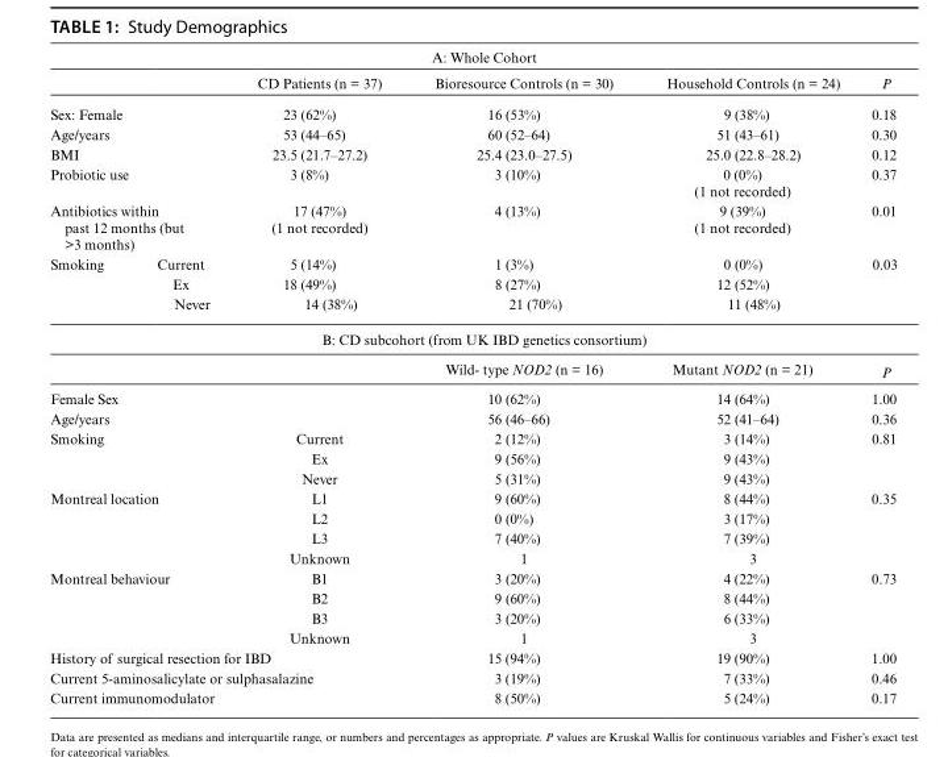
<table><thead><tr><td colspan="6">A: Whole Cohort</td></tr><tr><td></td><td></td><td>CD Patients (n = 37)</td><td>Bioresource Controls (n = 30)</td><td>Household Controls (n = 24)</td><td>P</td></tr></thead><tbody><tr><td colspan="2">Sex: Female</td><td>23 (62%)</td><td>16 (53%)</td><td>9 (38%)</td><td>0.18</td></tr><tr><td colspan="2">Age/years</td><td>53 (44–65)</td><td>60 (52–64)</td><td>51 (43–61)</td><td>0.30</td></tr><tr><td colspan="2">BMI</td><td>23.5 (21.7–27.2)</td><td>25.4 (23.0–27.5)</td><td>25.0 (22.8–28.2)</td><td>0.12</td></tr><tr><td colspan="2">Probiotic use</td><td>3 (8%)</td><td>3 (10%)</td><td>0 (0%) (1 not recorded)</td><td>0.37</td></tr><tr><td colspan="2">Antibiotics within past 12 months (but &gt;3 months)</td><td>17 (47%) (1 not recorded)</td><td>4 (13%)</td><td>9 (39%) (1 not recorded)</td><td>0.01</td></tr><tr><td rowspan="3">Smoking</td><td>Current</td><td>5 (14%)</td><td>1 (3%)</td><td>0 (0%)</td><td rowspan="3">0.03</td></tr><tr><td>Ex</td><td>18 (49%)</td><td>8 (27%)</td><td>12 (52%)</td></tr><tr><td>Never</td><td>14 (38%)</td><td>21 (70%)</td><td>11 (48%)</td></tr><tr><td colspan="6">B: CD subcohort (from UK IBD genetics consortium)</td></tr><tr><td colspan="3"></td><td>Wild- type NOD2 (n = 16)</td><td>Mutant NOD2 (n = 21)</td><td>P</td></tr><tr><td colspan="3">Female Sex</td><td>10 (62%)</td><td>14 (64%)</td><td>1.00</td></tr><tr><td colspan="3">Age/years</td><td>56 (46–66)</td><td>52 (41–64)</td><td>0.36</td></tr><tr><td rowspan="3" colspan="2">Smoking</td><td>Current</td><td>2 (12%)</td><td>3 (14%)</td><td rowspan="3">0.81</td></tr><tr><td>Ex</td><td>9 (56%)</td><td>9 (43%)</td></tr><tr><td>Never</td><td>5 (31%)</td><td>9 (43%)</td></tr><tr><td rowspan="4" colspan="2">Montreal location</td><td>L1</td><td>9 (60%)</td><td>8 (44%)</td><td rowspan="3">0.35</td></tr><tr><td>L2</td><td>0 (0%)</td><td>3 (17%)</td></tr><tr><td>L3</td><td>7 (40%)</td><td>7 (39%)</td></tr><tr><td>Unknown</td><td>1</td><td>3</td><td></td></tr><tr><td rowspan="4" colspan="2">Montreal behaviour</td><td>B1</td><td>3 (20%)</td><td>4 (22%)</td><td rowspan="3">0.73</td></tr><tr><td>B2</td><td>9 (60%)</td><td>8 (44%)</td></tr><tr><td>B3</td><td>3 (20%)</td><td>6 (33%)</td></tr><tr><td>Unknown</td><td>1</td><td>3</td><td></td></tr><tr><td colspan="3">History of surgical resection for IBD</td><td>15 (94%)</td><td>19 (90%)</td><td>1.00</td></tr><tr><td colspan="3">Current 5-aminosalicylate or sulphasalazine</td><td>3 (19%)</td><td>7 (33%)</td><td>0.46</td></tr><tr><td colspan="3">Current immunomodulator</td><td>8 (50%)</td><td>5 (24%)</td><td>0.17</td></tr></tbody></table>